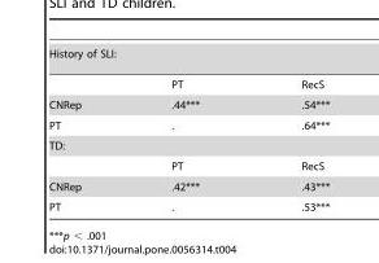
<table><tbody><tr><td colspan="3">History of SLI:</td></tr><tr><td></td><td>PT</td><td>RecS</td></tr><tr><td>CNRep</td><td>.44***</td><td>.54***</td></tr><tr><td>PT</td><td>.</td><td>.64***</td></tr><tr><td colspan="3">TD:</td></tr><tr><td></td><td>PT</td><td>RecS</td></tr><tr><td>CNRep</td><td>.42***</td><td>.43***</td></tr><tr><td>PT</td><td>.</td><td>.53***</td></tr></tbody></table>